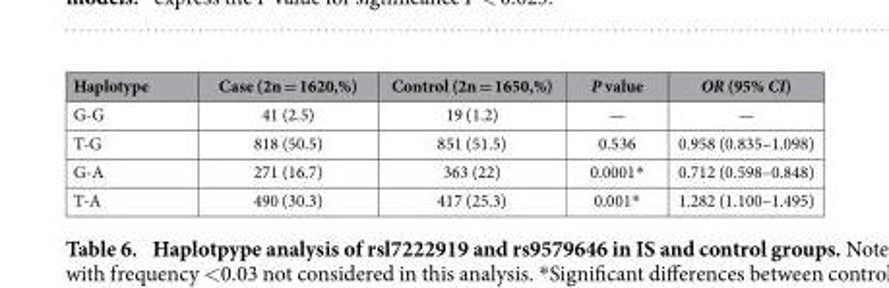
<table><thead><tr><td>Haplotype</td><td>Case (2n = 1620,%)</td><td>Control (2n = 1650,%)</td><td>P value</td><td>OR (95% CI)</td></tr></thead><tbody><tr><td>G-G</td><td>41 (2.5)</td><td>19 (1.2)</td><td>—</td><td>—</td></tr><tr><td>T-G</td><td>818 (50.5)</td><td>851 (51.5)</td><td>0.536</td><td>0.958 (0.835–1.098)</td></tr><tr><td>G-A</td><td>271 (16.7)</td><td>363 (22)</td><td>0.0001*</td><td>0.712 (0.598–0.848)</td></tr><tr><td>T-A</td><td>490 (30.3)</td><td>417 (25.3)</td><td>0.001*</td><td>1.282 (1.100–1.495)</td></tr></tbody></table>